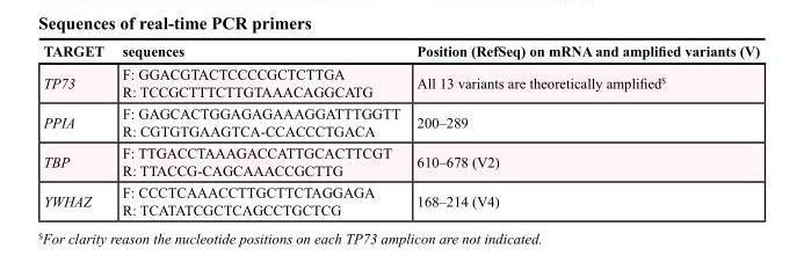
<table><thead><tr><td>TARGET</td><td>sequences</td><td>Position (RefSeq) on mRNA and amplified variants (V)</td></tr></thead><tbody><tr><td>TP73</td><td>F: GGACGTACTCCCCGCTCTTGA R: TCCGCTTTCTTGTAAACAGGCATG</td><td>All 13 variants are theoretically amplified<sup>$</sup></td></tr><tr><td>PPIA</td><td>F: GAGCACTGGAGAGAAAGGATTTGGTT R: CGTGTGAAGTCA-CCACCCTGACA</td><td>200–289</td></tr><tr><td>TBP</td><td>F: TTGACCTAAAGACCATTGCACTTCGT R: TTACCG-CAGCAAACCGCTTG</td><td>610–678 (V2)</td></tr><tr><td>YWHAZ</td><td>F: CCCTCAAACCTTGCTTCTAGGAGA R: TCATATCGCTCAGCCTGCTCG</td><td>168–214 (V4)</td></tr></tbody></table>